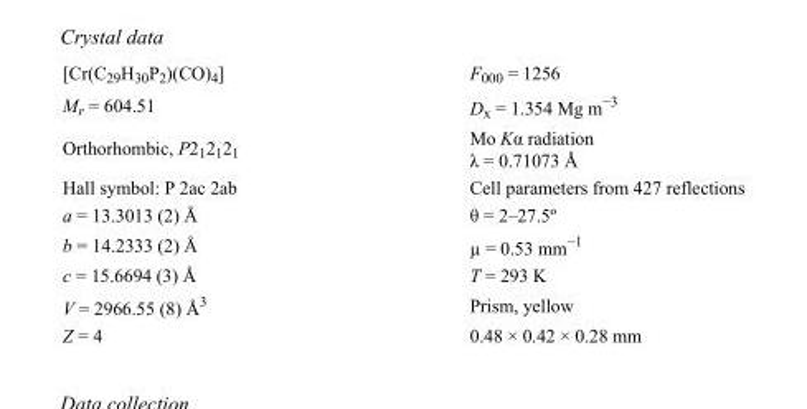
<table><tbody><tr><td>[Cr(C<sub>29</sub>H<sub>30</sub>P<sub>2</sub>)(CO)<sub>4</sub>]</td><td>F000 = 1256</td></tr><tr><td>M<sub>r</sub> = 604.51</td><td>D<sub>x</sub> = 1.354 Mg m<sup>−3</sup></td></tr><tr><td>Orthorhombic, P2<sub>1</sub>2<sub>1</sub>2<sub>1</sub></td><td>Mo Kα radiation λ = 0.71073 Å</td></tr><tr><td>Hall symbol: P 2ac 2ab</td><td>Cell parameters from 427 reflections</td></tr><tr><td>a = 13.3013 (2) Å</td><td>θ = 2–27.5º</td></tr><tr><td>b = 14.2333 (2) Å</td><td>µ = 0.53 mm<sup>−1</sup></td></tr><tr><td>c = 15.6694 (3) Å</td><td>T = 293 K</td></tr><tr><td>V = 2966.55 (8) Å<sup>3</sup></td><td>Prism, yellow</td></tr><tr><td>Z = 4</td><td>0.48 × 0.42 × 0.28 mm</td></tr></tbody></table>